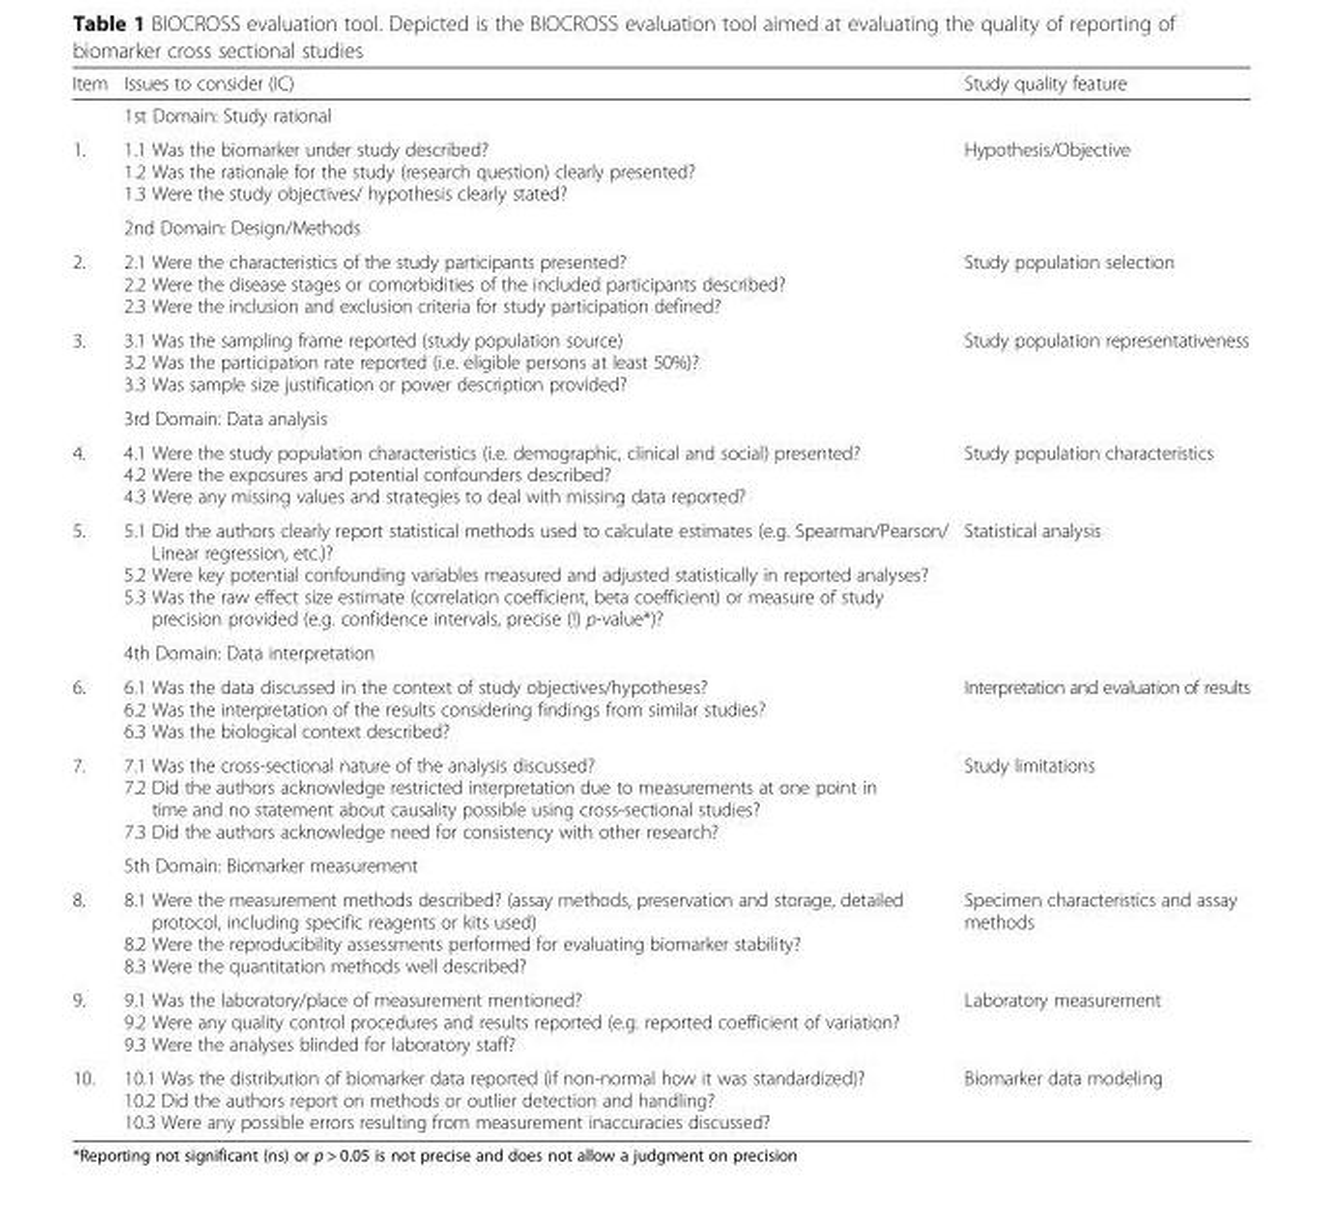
<table><thead><tr><td>Item</td><td>Issues to consider (IC)</td><td>Study quality feature</td></tr></thead><tbody><tr><td></td><td>1st Domain: Study rational</td><td></td></tr><tr><td rowspan="2">1.</td><td>1.1 Was the biomarker under study described? 1.2 Was the rationale for the study (research question) clearly presented? 1.3 Were the study objectives/ hypothesis clearly stated?</td><td>Hypothesis/Objective</td></tr><tr><td>2nd Domain: Design/Methods</td><td></td></tr><tr><td>2.</td><td>2.1 Were the characteristics of the study participants presented? 2.2 Were the disease stages or comorbidities of the included participants described? 2.3 Were the inclusion and exclusion criteria for study participation defined?</td><td>Study population selection</td></tr><tr><td rowspan="2">3.</td><td>3.1 Was the sampling frame reported (study population source) 3.2 Was the participation rate reported (i.e. eligible persons at least 50%)? 3.3 Was sample size justification or power description provided?</td><td>Study population representativeness</td></tr><tr><td>3rd Domain: Data analysis</td><td></td></tr><tr><td>4.</td><td>4.1 Were the study population characteristics (i.e. demographic, clinical and social) presented? 4.2 Were the exposures and potential confounders described? 4.3 Were any missing values and strategies to deal with missing data reported?</td><td>Study population characteristics</td></tr><tr><td rowspan="2">5.</td><td>5.1 Did the authors clearly report statistical methods used to calculate estimates (e.g. Spearman/Pearson/ Linear regression, etc.)? 5.2 Were key potential confounding variables measured and adjusted statistically in reported analyses? 5.3 Was the raw effect size estimate (correlation coefficient, beta coefficient) or measure of study precision provided (e.g. confidence intervals, precise (!) p-value*)?</td><td>Statistical analysis</td></tr><tr><td>4th Domain: Data interpretation</td><td></td></tr><tr><td>6.</td><td>6.1 Was the data discussed in the context of study objectives/hypotheses? 6.2 Was the interpretation of the results considering findings from similar studies? 6.3 Was the biological context described?</td><td>Interpretation and evaluation of results</td></tr><tr><td rowspan="2">7.</td><td>7.1 Was the cross-sectional nature of the analysis discussed? 7.2 Did the authors acknowledge restricted interpretation due to measurements at one point in time and no statement about causality possible using cross-sectional studies? 7.3 Did the authors acknowledge need for consistency with other research?</td><td>Study limitations</td></tr><tr><td>5th Domain: Biomarker measurement</td><td></td></tr><tr><td>8.</td><td>8.1 Were the measurement methods described? (assay methods, preservation and storage, detailed protocol, including specific reagents or kits used) 8.2 Were the reproducibility assessments performed for evaluating biomarker stability? 8.3 Were the quantitation methods well described?</td><td>Specimen characteristics and assay methods</td></tr><tr><td>9.</td><td>9.1 Was the laboratory/place of measurement mentioned? 9.2 Were any quality control procedures and results reported (e.g. reported coefficient of variation? 9.3 Were the analyses blinded for laboratory staff?</td><td>Laboratory measurement</td></tr><tr><td>10.</td><td>10.1 Was the distribution of biomarker data reported (if non-normal how it was standardized)? 10.2 Did the authors report on methods or outlier detection and handling? 10.3 Were any possible errors resulting from measurement inaccuracies discussed?</td><td>Biomarker data modeling</td></tr></tbody></table>